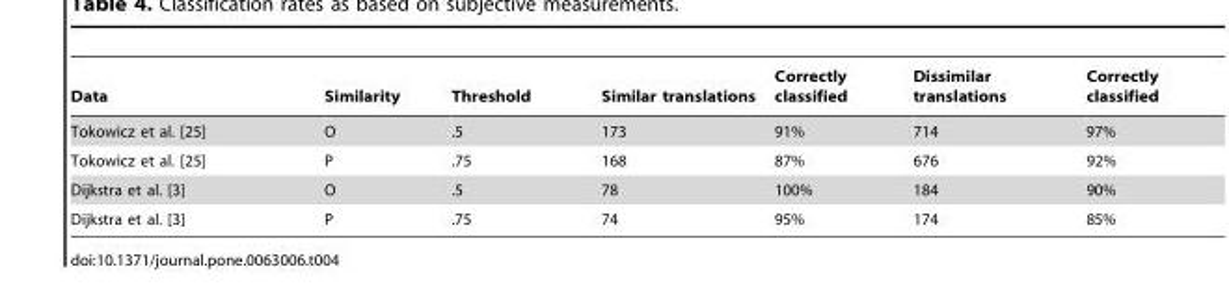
<table><thead><tr><td>Data</td><td>Similarity</td><td>Threshold</td><td>Similar translations</td><td>Correctly classified</td><td>Dissimilar translations</td><td>Correctly classified</td></tr></thead><tbody><tr><td>Tokowicz et al. [25]</td><td>O</td><td>.5</td><td>173</td><td>91%</td><td>714</td><td>97%</td></tr><tr><td>Tokowicz et al. [25]</td><td>P</td><td>.75</td><td>168</td><td>87%</td><td>676</td><td>92%</td></tr><tr><td>Dijkstra et al. [3]</td><td>O</td><td>.5</td><td>78</td><td>100%</td><td>184</td><td>90%</td></tr><tr><td>Dijkstra et al. [3]</td><td>P</td><td>.75</td><td>74</td><td>95%</td><td>174</td><td>85%</td></tr></tbody></table>